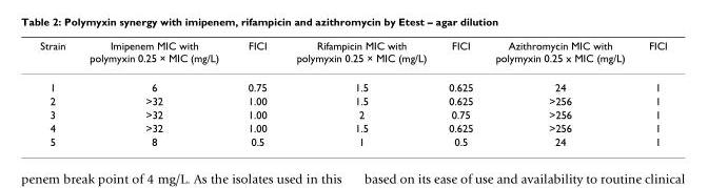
<table><thead><tr><td>Strain</td><td>Imipenem MIC with polymyxin 0.25 × MIC (mg/L)</td><td>FICI</td><td>Rifampicin MIC with polymyxin 0.25 × MIC (mg/L)</td><td>FICI</td><td>Azithromycin MIC with polymyxin 0.25 x MIC (mg/L)</td><td>FICI</td></tr></thead><tbody><tr><td>1</td><td>6</td><td>0.75</td><td>1.5</td><td>0.625</td><td>24</td><td>1</td></tr><tr><td>2</td><td>&gt;32</td><td>1.00</td><td>1.5</td><td>0.625</td><td>&gt;256</td><td>1</td></tr><tr><td>3</td><td>&gt;32</td><td>1.00</td><td>2</td><td>0.75</td><td>&gt;256</td><td>1</td></tr><tr><td>4</td><td>&gt;32</td><td>1.00</td><td>1.5</td><td>0.625</td><td>&gt;256</td><td>1</td></tr><tr><td>5</td><td>8</td><td>0.5</td><td>1</td><td>0.5</td><td>24</td><td>1</td></tr></tbody></table>